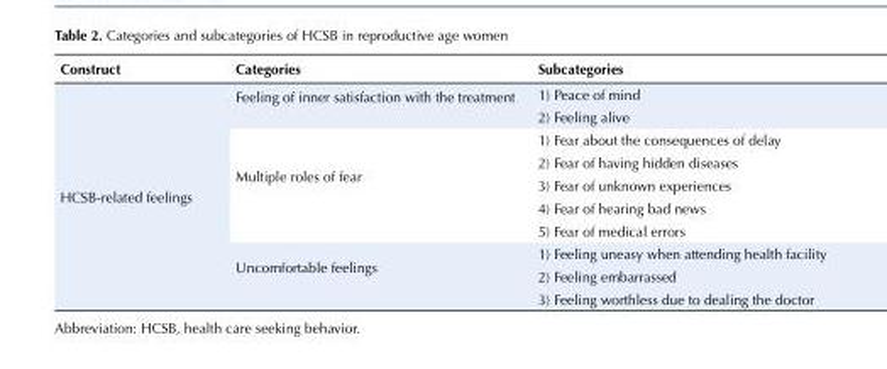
<table><tbody><tr><td>Construct</td><td>Categories</td><td>Subcategories</td></tr><tr><td rowspan="10">HCSB-related feelings</td><td rowspan="2">Feeling of inner satisfaction with the treatment</td><td>1) Peace of mind</td></tr><tr><td>2) Feeling alive</td></tr><tr><td rowspan="5">Multiple roles of fear</td><td>1) Fear about the consequences of delay</td></tr><tr><td>2) Fear of having hidden diseases</td></tr><tr><td>3) Fear of unknown experiences</td></tr><tr><td>4) Fear of hearing bad news</td></tr><tr><td>5) Fear of medical errors</td></tr><tr><td rowspan="3">Uncomfortable feelings</td><td>1) Feeling uneasy when attending health facility</td></tr><tr><td>2) Feeling embarrassed</td></tr><tr><td>3) Feeling worthless due to dealing the doctor</td></tr></tbody></table>